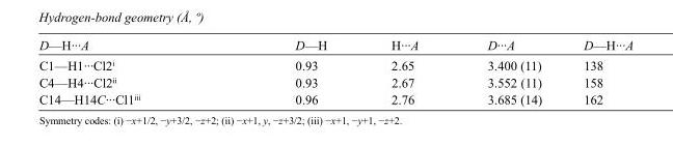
<table><tbody><tr><td>D—H···A</td><td>D—H</td><td>H···A</td><td>D···A</td><td>D—H···A</td></tr><tr><td>C1—H1···Cl2<sup>i</sup></td><td>0.93</td><td>2.65</td><td>3.400 (11)</td><td>138</td></tr><tr><td>C4—H4···Cl2<sup>ii</sup></td><td>0.93</td><td>2.67</td><td>3.552 (11)</td><td>158</td></tr><tr><td>C14—H14C···Cl1<sup>iii</sup></td><td>0.96</td><td>2.76</td><td>3.685 (14)</td><td>162</td></tr></tbody></table>